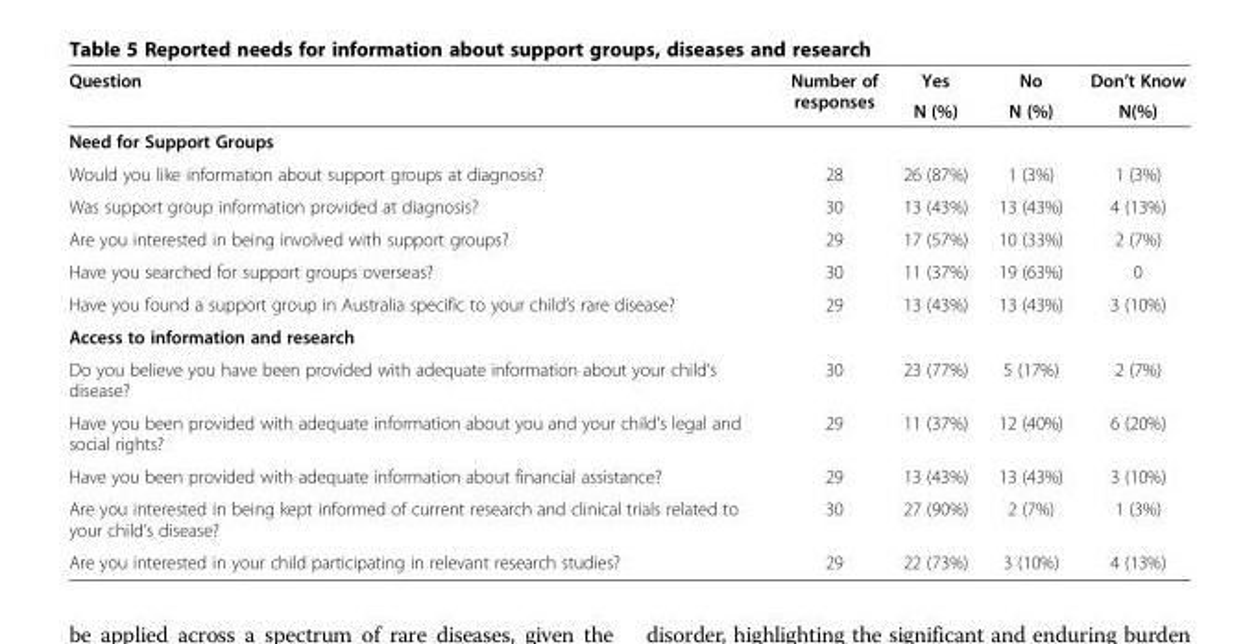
<table><thead><tr><td rowspan="2">Question</td><td rowspan="2">Number of responses</td><td rowspan="2">Yes N (%)</td><td rowspan="2">No N (%)</td><td rowspan="2">Don’t Know N(%)</td></tr><tr></tr></thead><tbody><tr><td colspan="5">Need for Support Groups</td></tr><tr><td>Would you like information about support groups at diagnosis?</td><td>28</td><td>26 (87%)</td><td>1 (3%)</td><td>1 (3%)</td></tr><tr><td>Was support group information provided at diagnosis?</td><td>30</td><td>13 (43%)</td><td>13 (43%)</td><td>4 (13%)</td></tr><tr><td>Are you interested in being involved with support groups?</td><td>29</td><td>17 (57%)</td><td>10 (33%)</td><td>2 (7%)</td></tr><tr><td>Have you searched for support groups overseas?</td><td>30</td><td>11 (37%)</td><td>19 (63%)</td><td>0</td></tr><tr><td>Have you found a support group in Australia specific to your child’s rare disease?</td><td>29</td><td>13 (43%)</td><td>13 (43%)</td><td>3 (10%)</td></tr><tr><td colspan="5">Access to information and research</td></tr><tr><td>Do you believe you have been provided with adequate information about your child’s disease?</td><td>30</td><td>23 (77%)</td><td>5 (17%)</td><td>2 (7%)</td></tr><tr><td>Have you been provided with adequate information about you and your child’s legal and social rights?</td><td>29</td><td>11 (37%)</td><td>12 (40%)</td><td>6 (20%)</td></tr><tr><td>Have you been provided with adequate information about financial assistance?</td><td>29</td><td>13 (43%)</td><td>13 (43%)</td><td>3 (10%)</td></tr><tr><td>Are you interested in being kept informed of current research and clinical trials related to your child’s disease?</td><td>30</td><td>27 (90%)</td><td>2 (7%)</td><td>1 (3%)</td></tr><tr><td>Are you interested in your child participating in relevant research studies?</td><td>29</td><td>22 (73%)</td><td>3 (10%)</td><td>4 (13%)</td></tr></tbody></table>